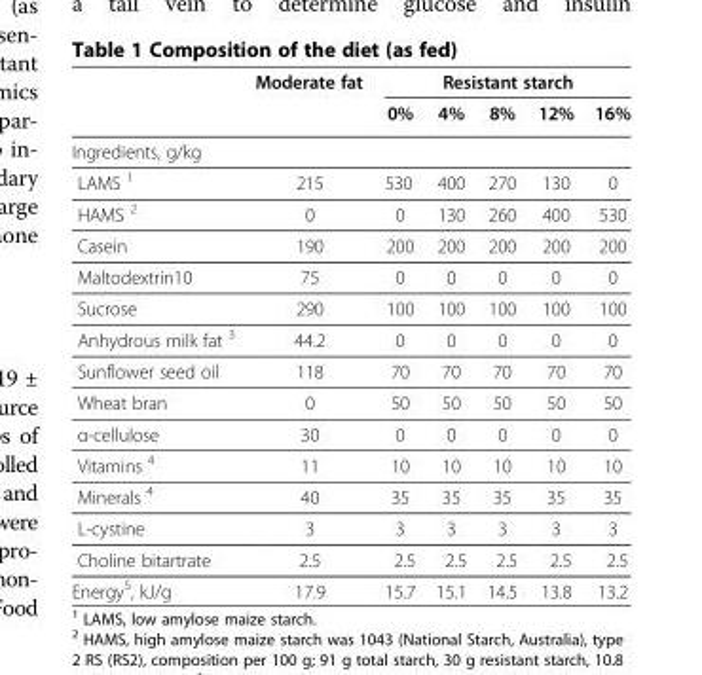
<table><thead><tr><td rowspan="2"></td><td rowspan="2">Moderate fat</td><td colspan="5">Resistant starch</td></tr><tr><td>0%</td><td>4%</td><td>8%</td><td>12%</td><td>16%</td></tr></thead><tbody><tr><td colspan="7">Ingredients, g/kg</td></tr><tr><td>LAMS <sup>1</sup></td><td>215</td><td>530</td><td>400</td><td>270</td><td>130</td><td>0</td></tr><tr><td>HAMS <sup>2</sup></td><td>0</td><td>0</td><td>130</td><td>260</td><td>400</td><td>530</td></tr><tr><td>Casein</td><td>190</td><td>200</td><td>200</td><td>200</td><td>200</td><td>200</td></tr><tr><td>Maltodextrin10</td><td>75</td><td>0</td><td>0</td><td>0</td><td>0</td><td>0</td></tr><tr><td>Sucrose</td><td>290</td><td>100</td><td>100</td><td>100</td><td>100</td><td>100</td></tr><tr><td>Anhydrous milk fat <sup>3</sup></td><td>44.2</td><td>0</td><td>0</td><td>0</td><td>0</td><td>0</td></tr><tr><td>Sunflower seed oil</td><td>118</td><td>70</td><td>70</td><td>70</td><td>70</td><td>70</td></tr><tr><td>Wheat bran</td><td>0</td><td>50</td><td>50</td><td>50</td><td>50</td><td>50</td></tr><tr><td>α-cellulose</td><td>30</td><td>0</td><td>0</td><td>0</td><td>0</td><td>0</td></tr><tr><td>Vitamins <sup>4</sup></td><td>11</td><td>10</td><td>10</td><td>10</td><td>10</td><td>10</td></tr><tr><td>Minerals <sup>4</sup></td><td>40</td><td>35</td><td>35</td><td>35</td><td>35</td><td>35</td></tr><tr><td>L-cystine</td><td>3</td><td>3</td><td>3</td><td>3</td><td>3</td><td>3</td></tr><tr><td>Choline bitartrate</td><td>2.5</td><td>2.5</td><td>2.5</td><td>2.5</td><td>2.5</td><td>2.5</td></tr><tr><td>Energy<sup>5</sup>, kJ/g</td><td>17.9</td><td>15.7</td><td>15.1</td><td>14.5</td><td>13.8</td><td>13.2</td></tr></tbody></table>